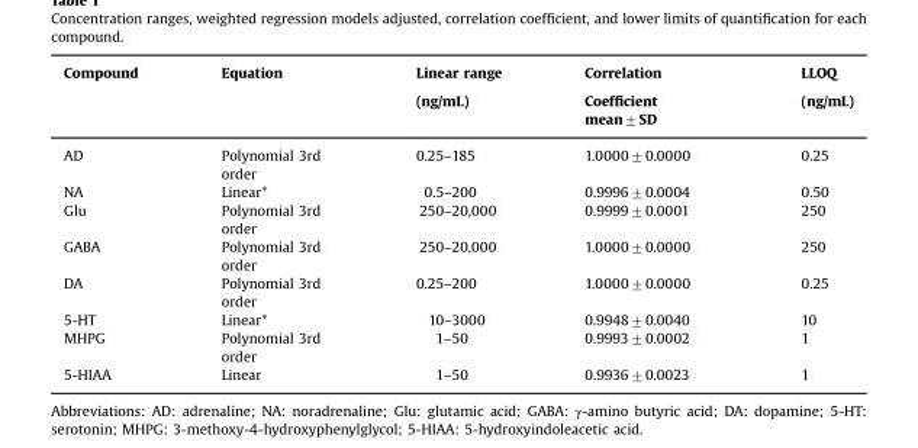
<table><thead><tr><td>Compound</td><td>Equation</td><td>Linear range</td><td>Correlation</td><td>LLOQ</td></tr></thead><tbody><tr><td></td><td></td><td>(ng/mL)</td><td>Coefficient mean±SD</td><td>(ng/mL)</td></tr><tr><td>AD</td><td>Polynomial 3rd order</td><td>0.25–185</td><td>1.0000±0.0000</td><td>0.25</td></tr><tr><td>NA</td><td>Linear*</td><td>0.5–200</td><td>0.9996±0.0004</td><td>0.50</td></tr><tr><td>Glu</td><td>Polynomial 3rd order</td><td>250–20,000</td><td>0.9999±0.0001</td><td>250</td></tr><tr><td>GABA</td><td>Polynomial 3rd order</td><td>250–20,000</td><td>1.0000±0.0000</td><td>250</td></tr><tr><td>DA</td><td>Polynomial 3rd order</td><td>0.25–200</td><td>1.0000±0.0000</td><td>0.25</td></tr><tr><td>5-HT</td><td>Linear*</td><td>10–3000</td><td>0.9948±0.0040</td><td>10</td></tr><tr><td>MHPG</td><td>Polynomial 3rd order</td><td>1–50</td><td>0.9993±0.0002</td><td>1</td></tr><tr><td>5-HIAA</td><td>Linear</td><td>1–50</td><td>0.9936±0.0023</td><td>1</td></tr></tbody></table>